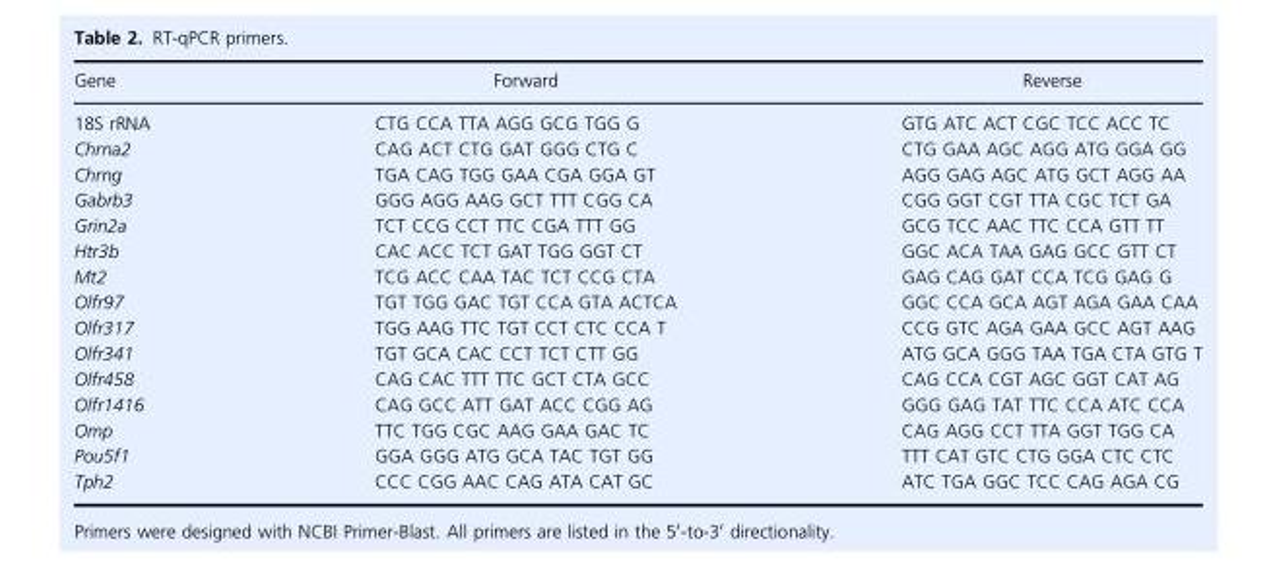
<table><thead><tr><td>Gene</td><td>Forward</td><td>Reverse</td></tr></thead><tbody><tr><td>18S rRNA</td><td>CTG CCA TTA AGG GCG TGG G</td><td>GTG ATC ACT CGC TCC ACC TC</td></tr><tr><td>Chrna2</td><td>CAG ACT CTG GAT GGG CTG C</td><td>CTG GAA AGC AGG ATG GGA GG</td></tr><tr><td>Chrng</td><td>TGA CAG TGG GAA CGA GGA GT</td><td>AGG GAG AGC ATG GCT AGG AA</td></tr><tr><td>Gabrb3</td><td>GGG AGG AAG GCT TTT CGG CA</td><td>CGG GGT CGT TTA CGC TCT GA</td></tr><tr><td>Grin2a</td><td>TCT CCG CCT TTC CGA TTT GG</td><td>GCG TCC AAC TTC CCA GTT TT</td></tr><tr><td>Htr3b</td><td>CAC ACC TCT GAT TGG GGT CT</td><td>GGC ACA TAA GAG GCC GTT CT</td></tr><tr><td>Mt2</td><td>TCG ACC CAA TAC TCT CCG CTA</td><td>GAG CAG GAT CCA TCG GAG G</td></tr><tr><td>Olfr97</td><td>TGT TGG GAC TGT CCA GTA ACTCA</td><td>GGC CCA GCA AGT AGA GAA CAA</td></tr><tr><td>Olfr317</td><td>TGG AAG TTC TGT CCT CTC CCA T</td><td>CCG GTC AGA GAA GCC AGT AAG</td></tr><tr><td>Olfr341</td><td>TGT GCA CAC CCT TCT CTT GG</td><td>ATG GCA GGG TAA TGA CTA GTG T</td></tr><tr><td>Olfr458</td><td>CAG CAC TTT TTC GCT CTA GCC</td><td>CAG CCA CGT AGC GGT CAT AG</td></tr><tr><td>Olfr1416</td><td>CAG GCC ATT GAT ACC CGG AG</td><td>GGG GAG TAT TTC CCA ATC CCA</td></tr><tr><td>Omp</td><td>TTC TGG CGC AAG GAA GAC TC</td><td>CAG AGG CCT TTA GGT TGG CA</td></tr><tr><td>Pou5f1</td><td>GGA GGG ATG GCA TAC TGT GG</td><td>TTT CAT GTC CTG GGA CTC CTC</td></tr><tr><td>Tph2</td><td>CCC CGG AAC CAG ATA CAT GC</td><td>ATC TGA GGC TCC CAG AGA CG</td></tr></tbody></table>